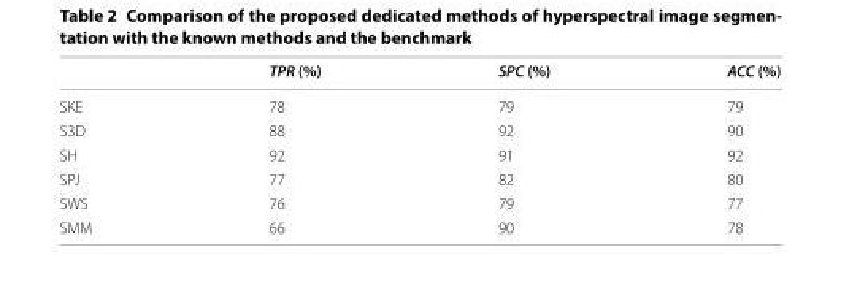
<table><thead><tr><td></td><td>TPR (%)</td><td>SPC (%)</td><td>ACC (%)</td></tr></thead><tbody><tr><td>SKE</td><td>78</td><td>79</td><td>79</td></tr><tr><td>S3D</td><td>88</td><td>92</td><td>90</td></tr><tr><td>SH</td><td>92</td><td>91</td><td>92</td></tr><tr><td>SPJ</td><td>77</td><td>82</td><td>80</td></tr><tr><td>SWS</td><td>76</td><td>79</td><td>77</td></tr><tr><td>SMM</td><td>66</td><td>90</td><td>78</td></tr></tbody></table>